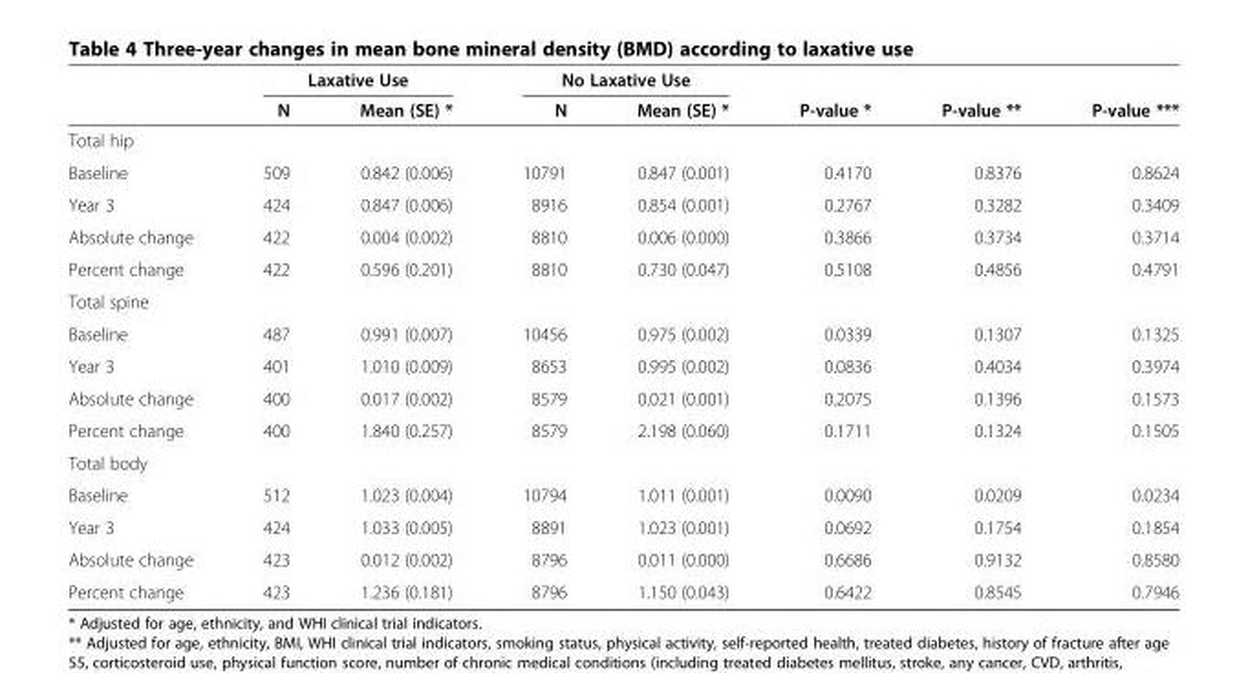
<table><thead><tr><td rowspan="2"></td><td colspan="2">Laxative Use</td><td colspan="2">No Laxative Use</td><td rowspan="2">P-value *</td><td rowspan="2">P-value **</td><td rowspan="2">P-value ***</td></tr><tr><td>N</td><td>Mean (SE) *</td><td>N</td><td>Mean (SE) *</td></tr></thead><tbody><tr><td colspan="8">Total hip</td></tr><tr><td>Baseline</td><td>509</td><td>0.842 (0.006)</td><td>10791</td><td>0.847 (0.001)</td><td>0.4170</td><td>0.8376</td><td>0.8624</td></tr><tr><td>Year 3</td><td>424</td><td>0.847 (0.006)</td><td>8916</td><td>0.854 (0.001)</td><td>0.2767</td><td>0.3282</td><td>0.3409</td></tr><tr><td>Absolute change</td><td>422</td><td>0.004 (0.002)</td><td>8810</td><td>0.006 (0.000)</td><td>0.3866</td><td>0.3734</td><td>0.3714</td></tr><tr><td>Percent change</td><td>422</td><td>0.596 (0.201)</td><td>8810</td><td>0.730 (0.047)</td><td>0.5108</td><td>0.4856</td><td>0.4791</td></tr><tr><td colspan="8">Total spine</td></tr><tr><td>Baseline</td><td>487</td><td>0.991 (0.007)</td><td>10456</td><td>0.975 (0.002)</td><td>0.0339</td><td>0.1307</td><td>0.1325</td></tr><tr><td>Year 3</td><td>401</td><td>1.010 (0.009)</td><td>8653</td><td>0.995 (0.002)</td><td>0.0836</td><td>0.4034</td><td>0.3974</td></tr><tr><td>Absolute change</td><td>400</td><td>0.017 (0.002)</td><td>8579</td><td>0.021 (0.001)</td><td>0.2075</td><td>0.1396</td><td>0.1573</td></tr><tr><td>Percent change</td><td>400</td><td>1.840 (0.257)</td><td>8579</td><td>2.198 (0.060)</td><td>0.1711</td><td>0.1324</td><td>0.1505</td></tr><tr><td colspan="8">Total body</td></tr><tr><td>Baseline</td><td>512</td><td>1.023 (0.004)</td><td>10794</td><td>1.011 (0.001)</td><td>0.0090</td><td>0.0209</td><td>0.0234</td></tr><tr><td>Year 3</td><td>424</td><td>1.033 (0.005)</td><td>8891</td><td>1.023 (0.001)</td><td>0.0692</td><td>0.1754</td><td>0.1854</td></tr><tr><td>Absolute change</td><td>423</td><td>0.012 (0.002)</td><td>8796</td><td>0.011 (0.000)</td><td>0.6686</td><td>0.9132</td><td>0.8580</td></tr><tr><td>Percent change</td><td>423</td><td>1.236 (0.181)</td><td>8796</td><td>1.150 (0.043)</td><td>0.6422</td><td>0.8545</td><td>0.7946</td></tr></tbody></table>